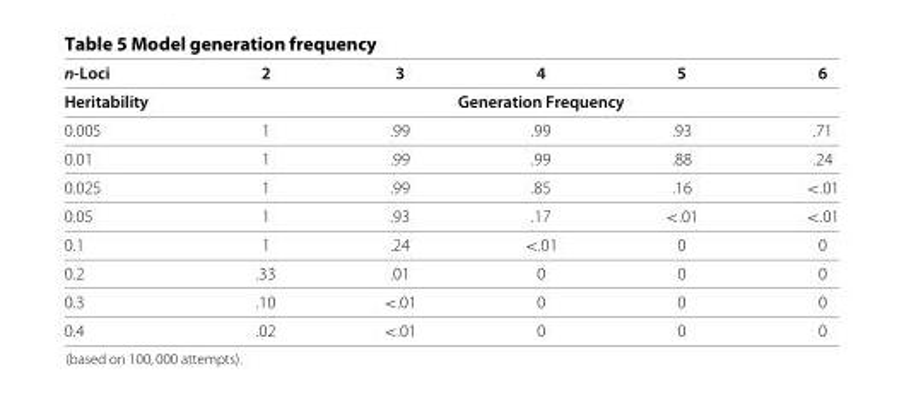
<table><thead><tr><td>n-Loci</td><td>2</td><td>3</td><td>4</td><td>5</td><td>6</td></tr></thead><tbody><tr><td>Heritability</td><td colspan="5">Generation Frequency</td></tr><tr><td>0.005</td><td>1</td><td>.99</td><td>.99</td><td>.93</td><td>.71</td></tr><tr><td>0.01</td><td>1</td><td>.99</td><td>.99</td><td>.88</td><td>.24</td></tr><tr><td>0.025</td><td>1</td><td>.99</td><td>.85</td><td>.16</td><td>&lt;.01</td></tr><tr><td>0.05</td><td>1</td><td>.93</td><td>.17</td><td>&lt;.01</td><td>&lt;.01</td></tr><tr><td>0.1</td><td>1</td><td>.24</td><td>&lt;.01</td><td>0</td><td>0</td></tr><tr><td>0.2</td><td>.33</td><td>.01</td><td>0</td><td>0</td><td>0</td></tr><tr><td>0.3</td><td>.10</td><td>&lt;.01</td><td>0</td><td>0</td><td>0</td></tr><tr><td>0.4</td><td>.02</td><td>&lt;.01</td><td>0</td><td>0</td><td>0</td></tr></tbody></table>